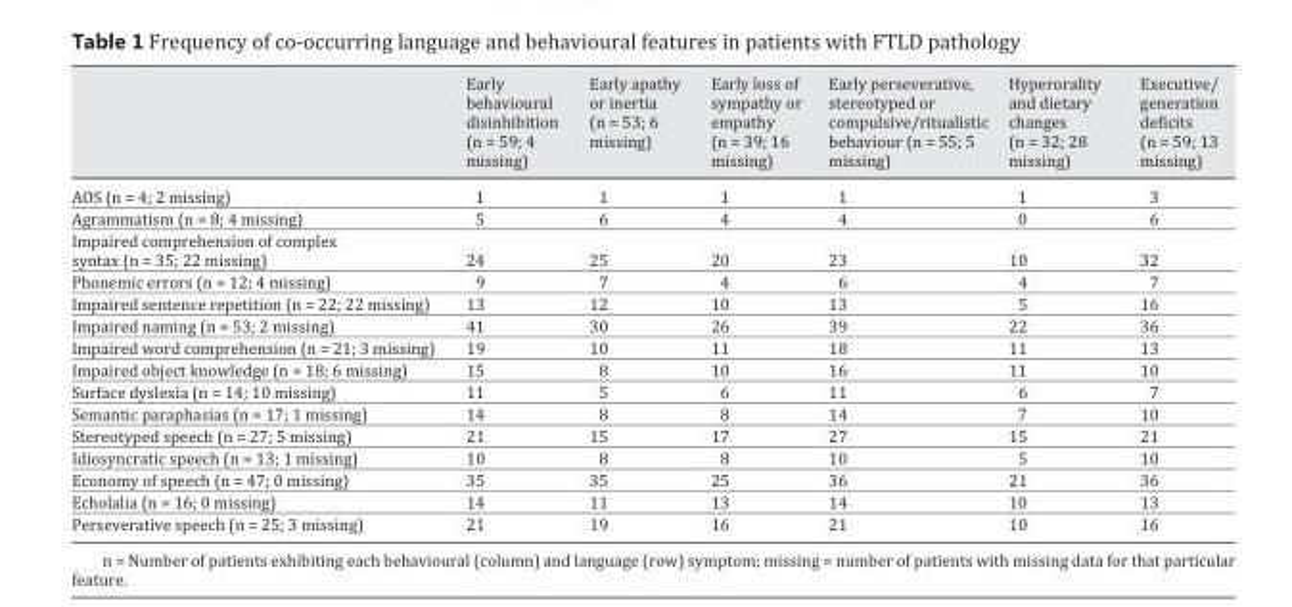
<table><thead><tr><td></td><td>Early behavioural disinhibition (n = 59; 4 missing)</td><td>Early apathy or inertia (n = 53; 6 missing)</td><td>Early loss of sympathy or empathy (n = 39; 16 missing)</td><td>Early perseverative, stereotyped or compulsive/ritualistic behaviour (n = 55; 5 missing)</td><td>Hyperorality and dietary changes (n = 32; 28 missing)</td><td>Executive/ generation deficits (n = 59; 13 missing)</td></tr></thead><tbody><tr><td>AOS (n = 4; 2 missing)</td><td>1</td><td>1</td><td>1</td><td>1</td><td>1</td><td>3</td></tr><tr><td>Agrammatism (n = 8; 4 missing)</td><td>5</td><td>6</td><td>4</td><td>4</td><td>0</td><td>6</td></tr><tr><td>Impaired comprehension of complex syntax (n = 35; 22 missing)</td><td>24</td><td>25</td><td>20</td><td>23</td><td>10</td><td>32</td></tr><tr><td>Phonemic errors (n = 12; 4 missing)</td><td>9</td><td>7</td><td>4</td><td>6</td><td>4</td><td>7</td></tr><tr><td>Impaired sentence repetition (n = 22; 22 missing)</td><td>13</td><td>12</td><td>10</td><td>13</td><td>5</td><td>16</td></tr><tr><td>Impaired naming (n = 53; 2 missing)</td><td>41</td><td>30</td><td>26</td><td>39</td><td>22</td><td>36</td></tr><tr><td>Impaired word comprehension (n = 21; 3 missing)</td><td>19</td><td>10</td><td>11</td><td>18</td><td>11</td><td>13</td></tr><tr><td>Impaired object knowledge (n = 18; 6 missing)</td><td>15</td><td>8</td><td>10</td><td>16</td><td>11</td><td>10</td></tr><tr><td>Surface dyslexia (n = 14; 10 missing)</td><td>11</td><td>5</td><td>6</td><td>11</td><td>6</td><td>7</td></tr><tr><td>Semantic paraphasias (n = 17; 1 missing)</td><td>14</td><td>8</td><td>8</td><td>14</td><td>7</td><td>10</td></tr><tr><td>Stereotyped speech (n = 27; 5 missing)</td><td>21</td><td>15</td><td>17</td><td>27</td><td>15</td><td>21</td></tr><tr><td>Idiosyncratic speech (n = 13; 1 missing)</td><td>10</td><td>8</td><td>8</td><td>10</td><td>5</td><td>10</td></tr><tr><td>Economy of speech (n = 47; 0 miss ing)</td><td>35</td><td>35</td><td>25</td><td>36</td><td>21</td><td>36</td></tr><tr><td>Echolalia (n = 16; 0 missing)</td><td>14</td><td>11</td><td>13</td><td>14</td><td>10</td><td>13</td></tr><tr><td>Perseverative speech (n = 25; 3 missing)</td><td>21</td><td>19</td><td>16</td><td>21</td><td>10</td><td>16</td></tr></tbody></table>